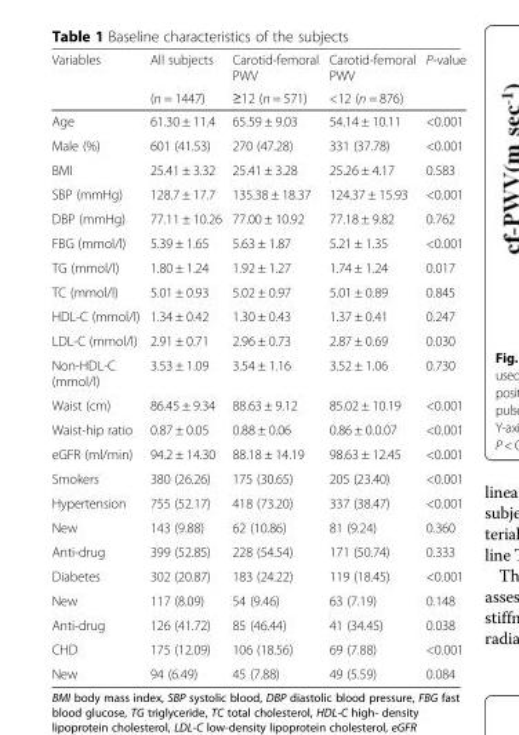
<table><thead><tr><td rowspan="2">Variables</td><td rowspan="2">All subjects (n = 1447)</td><td rowspan="2">Carotid-femoral PWV ≥12 (n = 571)</td><td rowspan="2">Carotid-femoral PWV &lt;12 (n = 876)</td><td rowspan="2">P-value</td></tr><tr></tr></thead><tbody><tr><td>Age</td><td>61.30 ± 11.4</td><td>65.59 ± 9.03</td><td>54.14 ± 10.11</td><td>&lt;0.001</td></tr><tr><td>Male (%)</td><td>601 (41.53)</td><td>270 (47.28)</td><td>331 (37.78)</td><td>&lt;0.001</td></tr><tr><td>BMI</td><td>25.41 ± 3.32</td><td>25.41 ± 3.28</td><td>25.26 ± 4.17</td><td>0.583</td></tr><tr><td>SBP (mmHg)</td><td>128.7 ± 17.7</td><td>135.38 ± 18.37</td><td>124.37 ± 15.93</td><td>&lt;0.001</td></tr><tr><td>DBP (mmHg)</td><td>77.11 ± 10.26</td><td>77.00 ± 10.92</td><td>77.18 ± 9.82</td><td>0.762</td></tr><tr><td>FBG (mmol/l)</td><td>5.39 ± 1.65</td><td>5.63 ± 1.87</td><td>5.21 ± 1.35</td><td>&lt;0.001</td></tr><tr><td>TG (mmol/l)</td><td>1.80 ± 1.24</td><td>1.92 ± 1.27</td><td>1.74 ± 1.24</td><td>0.017</td></tr><tr><td>TC (mmol/l)</td><td>5.01 ± 0.93</td><td>5.02 ± 0.97</td><td>5.01 ± 0.89</td><td>0.845</td></tr><tr><td>HDL-C (mmol/l)</td><td>1.34 ± 0.42</td><td>1.30 ± 0.43</td><td>1.37 ± 0.41</td><td>0.247</td></tr><tr><td>LDL-C (mmol/l)</td><td>2.91 ± 0.71</td><td>2.96 ± 0.73</td><td>2.87 ± 0.69</td><td>0.030</td></tr><tr><td>Non-HDL-C (mmol/l)</td><td>3.53 ± 1.09</td><td>3.54 ± 1.16</td><td>3.52 ± 1.06</td><td>0.730</td></tr><tr><td>Waist (cm)</td><td>86.45 ± 9.34</td><td>88.63 ± 9.12</td><td>85.02 ± 10.19</td><td>&lt;0.001</td></tr><tr><td>Waist-hip ratio</td><td>0.87 ± 0.05</td><td>0.88 ± 0.06</td><td>0.86 ± 0.0.07</td><td>&lt;0.001</td></tr><tr><td>eGFR (ml/min)</td><td>94.2 ± 14.30</td><td>88.18 ± 14.19</td><td>98.63 ± 12.45</td><td>&lt;0.001</td></tr><tr><td>Smokers</td><td>380 (26.26)</td><td>175 (30.65)</td><td>205 (23.40)</td><td>&lt;0.001</td></tr><tr><td>Hypertension</td><td>755 (52.17)</td><td>418 (73.20)</td><td>337 (38.47)</td><td>&lt;0.001</td></tr><tr><td>New</td><td>143 (9.88)</td><td>62 (10.86)</td><td>81 (9.24)</td><td>0.360</td></tr><tr><td>Anti-drug</td><td>399 (52.85)</td><td>228 (54.54)</td><td>171 (50.74)</td><td>0.333</td></tr><tr><td>Diabetes</td><td>302 (20.87)</td><td>183 (24.22)</td><td>119 (18.45)</td><td>&lt;0.001</td></tr><tr><td>New</td><td>117 (8.09)</td><td>54 (9.46)</td><td>63 (7.19)</td><td>0.148</td></tr><tr><td>Anti-drug</td><td>126 (41.72)</td><td>85 (46.44)</td><td>41 (34.45)</td><td>0.038</td></tr><tr><td>CHD</td><td>175 (12.09)</td><td>106 (18.56)</td><td>69 (7.88)</td><td>&lt;0.001</td></tr><tr><td>New</td><td>94 (6.49)</td><td>45 (7.88)</td><td>49 (5.59)</td><td>0.084</td></tr></tbody></table>